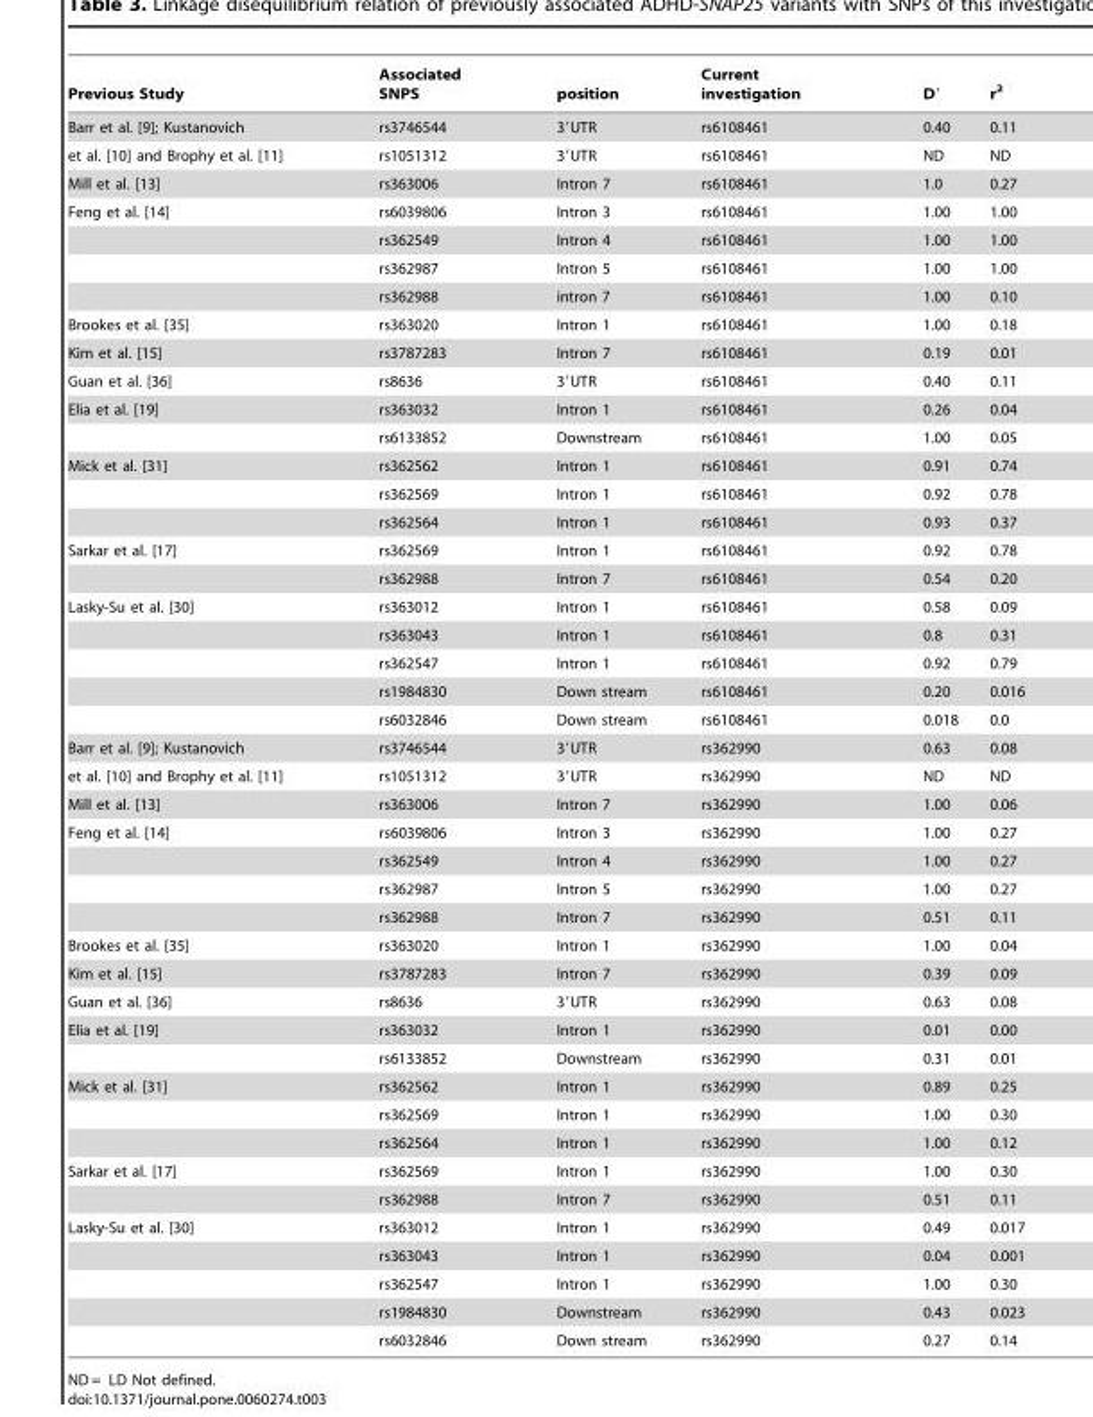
<table><thead><tr><td>Previous Study</td><td>Associated SNPS</td><td>position</td><td>Current investigation</td><td>D′</td><td>r<sup>2</sup></td></tr></thead><tbody><tr><td>Barr et al. [9]; Kustanovich</td><td>rs3746544</td><td>3′UTR</td><td>rs6108461</td><td>0.40</td><td>0.11</td></tr><tr><td>et al. [10] and Brophy et al. [11]</td><td>rs1051312</td><td>3′UTR</td><td>rs6108461</td><td>ND</td><td>ND</td></tr><tr><td>Mill et al. [13]</td><td>rs363006</td><td>Intron 7</td><td>rs6108461</td><td>1.0</td><td>0.27</td></tr><tr><td rowspan="4">Feng et al. [14]</td><td>rs6039806</td><td>Intron 3</td><td>rs6108461</td><td>1.00</td><td>1.00</td></tr><tr><td>rs362549</td><td>Intron 4</td><td>rs6108461</td><td>1.00</td><td>1.00</td></tr><tr><td>rs362987</td><td>Intron 5</td><td>rs6108461</td><td>1.00</td><td>1.00</td></tr><tr><td>rs362988</td><td>intron 7</td><td>rs6108461</td><td>1.00</td><td>0.10</td></tr><tr><td>Brookes et al. [35]</td><td>rs363020</td><td>Intron 1</td><td>rs6108461</td><td>1.00</td><td>0.18</td></tr><tr><td>Kim et al. [15]</td><td>rs3787283</td><td>Intron 7</td><td>rs6108461</td><td>0.19</td><td>0.01</td></tr><tr><td>Guan et al. [36]</td><td>rs8636</td><td>3′UTR</td><td>rs6108461</td><td>0.40</td><td>0.11</td></tr><tr><td rowspan="2">Elia et al. [19]</td><td>rs363032</td><td>Intron 1</td><td>rs6108461</td><td>0.26</td><td>0.04</td></tr><tr><td>rs6133852</td><td>Downstream</td><td>rs6108461</td><td>1.00</td><td>0.05</td></tr><tr><td rowspan="3">Mick et al. [31]</td><td>rs362562</td><td>Intron 1</td><td>rs6108461</td><td>0.91</td><td>0.74</td></tr><tr><td>rs362569</td><td>Intron 1</td><td>rs6108461</td><td>0.92</td><td>0.78</td></tr><tr><td>rs362564</td><td>Intron 1</td><td>rs6108461</td><td>0.93</td><td>0.37</td></tr><tr><td rowspan="2">Sarkar et al. [17]</td><td>rs362569</td><td>Intron 1</td><td>rs6108461</td><td>0.92</td><td>0.78</td></tr><tr><td>rs362988</td><td>Intron 7</td><td>rs6108461</td><td>0.54</td><td>0.20</td></tr><tr><td rowspan="5">Lasky-Su et al. [30]</td><td>rs363012</td><td>Intron 1</td><td>rs6108461</td><td>0.58</td><td>0.09</td></tr><tr><td>rs363043</td><td>Intron 1</td><td>rs6108461</td><td>0.8</td><td>0.31</td></tr><tr><td>rs362547</td><td>Intron 1</td><td>rs6108461</td><td>0.92</td><td>0.79</td></tr><tr><td>rs1984830</td><td>Down stream</td><td>rs6108461</td><td>0.20</td><td>0.016</td></tr><tr><td>rs6032846</td><td>Down stream</td><td>rs6108461</td><td>0.018</td><td>0.0</td></tr><tr><td>Barr et al. [9]; Kustanovich</td><td>rs3746544</td><td>3′UTR</td><td>rs362990</td><td>0.63</td><td>0.08</td></tr><tr><td>et al. [10] and Brophy et al. [11]</td><td>rs1051312</td><td>3′UTR</td><td>rs362990</td><td>ND</td><td>ND</td></tr><tr><td>Mill et al. [13]</td><td>rs363006</td><td>Intron 7</td><td>rs362990</td><td>1.00</td><td>0.06</td></tr><tr><td rowspan="4">Feng et al. [14]</td><td>rs6039806</td><td>Intron 3</td><td>rs362990</td><td>1.00</td><td>0.27</td></tr><tr><td>rs362549</td><td>Intron 4</td><td>rs362990</td><td>1.00</td><td>0.27</td></tr><tr><td>rs362987</td><td>Intron 5</td><td>rs362990</td><td>1.00</td><td>0.27</td></tr><tr><td>rs362988</td><td>Intron 7</td><td>rs362990</td><td>0.51</td><td>0.11</td></tr><tr><td>Brookes et al. [35]</td><td>rs363020</td><td>Intron 1</td><td>rs362990</td><td>1.00</td><td>0.04</td></tr><tr><td>Kim et al. [15]</td><td>rs3787283</td><td>Intron 7</td><td>rs362990</td><td>0.39</td><td>0.09</td></tr><tr><td>Guan et al. [36]</td><td>rs8636</td><td>3′UTR</td><td>rs362990</td><td>0.63</td><td>0.08</td></tr><tr><td rowspan="2">Elia et al. [19]</td><td>rs363032</td><td>Intron 1</td><td>rs362990</td><td>0.01</td><td>0.00</td></tr><tr><td>rs6133852</td><td>Downstream</td><td>rs362990</td><td>0.31</td><td>0.01</td></tr><tr><td rowspan="3">Mick et al. [31]</td><td>rs362562</td><td>Intron 1</td><td>rs362990</td><td>0.89</td><td>0.25</td></tr><tr><td>rs362569</td><td>Intron 1</td><td>rs362990</td><td>1.00</td><td>0.30</td></tr><tr><td>rs362564</td><td>Intron 1</td><td>rs362990</td><td>1.00</td><td>0.12</td></tr><tr><td rowspan="2">Sarkar et al. [17]</td><td>rs362569</td><td>Intron 1</td><td>rs362990</td><td>1.00</td><td>0.30</td></tr><tr><td>rs362988</td><td>Intron 7</td><td>rs362990</td><td>0.51</td><td>0.11</td></tr><tr><td rowspan="5">Lasky-Su et al. [30]</td><td>rs363012</td><td>Intron 1</td><td>rs362990</td><td>0.49</td><td>0.017</td></tr><tr><td>rs363043</td><td>Intron 1</td><td>rs362990</td><td>0.04</td><td>0.001</td></tr><tr><td>rs362547</td><td>Intron 1</td><td>rs362990</td><td>1.00</td><td>0.30</td></tr><tr><td>rs1984830</td><td>Downstream</td><td>rs362990</td><td>0.43</td><td>0.023</td></tr><tr><td>rs6032846</td><td>Down stream</td><td>rs362990</td><td>0.27</td><td>0.14</td></tr></tbody></table>